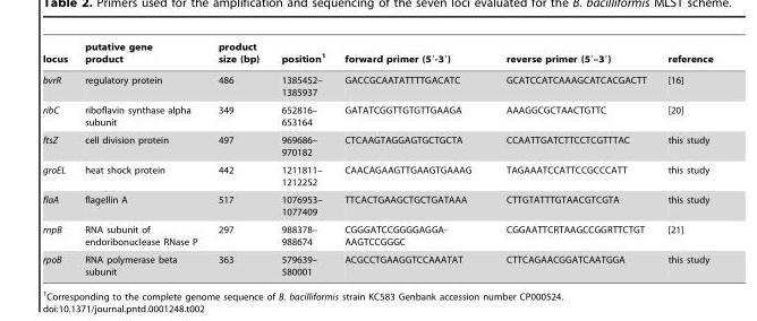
<table><thead><tr><td>locus</td><td>putative gene product</td><td>product size (bp)</td><td>position<sup>1</sup></td><td>forward primer (5′-3′)</td><td>reverse primer (5′–3′)</td><td>reference</td></tr></thead><tbody><tr><td>bvrR</td><td>regulatory protein</td><td>486</td><td>1385452– 1385937</td><td>GACCGCAATATTTTGACATC</td><td>GCATCCATCAAAGCATCACGACTT</td><td>[16]</td></tr><tr><td>ribC</td><td>riboflavin synthase alpha subunit</td><td>349</td><td>652816– 653164</td><td>GATATCGGTTGTGTTGAAGA</td><td>AAAGGCGCTAACTGTTC</td><td>[20]</td></tr><tr><td>ftsZ</td><td>cell division protein</td><td>497</td><td>969686– 970182</td><td>CTCAAGTAGGAGTGCTGCTA</td><td>CCAATTGATCTTCCTCGTTTAC</td><td>this study</td></tr><tr><td>groEL</td><td>heat shock protein</td><td>442</td><td>1211811– 1212252</td><td>CAACAGAAGTTGAAGTGAAAG</td><td>TAGAAATCCATTCCGCCCATT</td><td>this study</td></tr><tr><td>flaA</td><td>flagellin A</td><td>517</td><td>1076953– 1077409</td><td>TTCACTGAAGCTGCTGATAAA</td><td>CTTGTATTTGTAACGTCGTA</td><td>this study</td></tr><tr><td>rnpB</td><td>RNA subunit of endoribonuclease RNase P</td><td>297</td><td>988378– 988674</td><td>CGGGATCCGGGGAGGA- AAGTCCGGGC</td><td>CGGAATTCRTAAGCCGGRTTCTGT</td><td>[21]</td></tr><tr><td>rpoB</td><td>RNA polymerase beta subunit</td><td>363</td><td>579639– 580001</td><td>ACGCCTGAAGGTCCAAATAT</td><td>CTTCAGAACGGATCAATGGA</td><td>this study</td></tr></tbody></table>